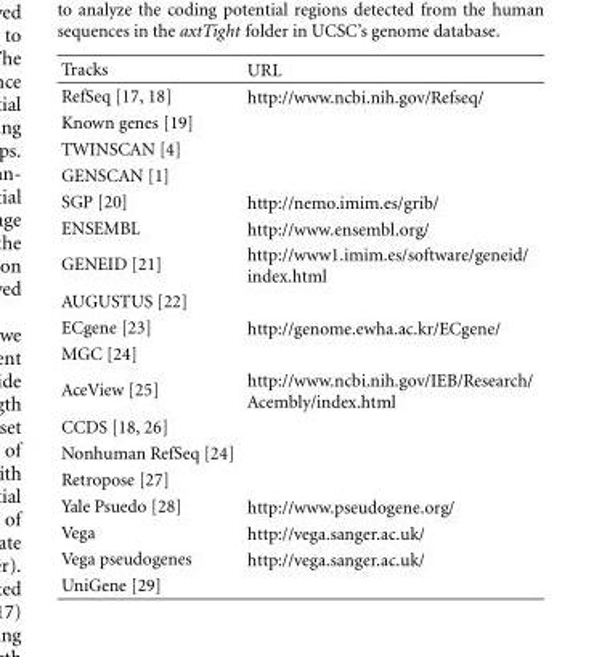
<table><thead><tr><td>Tracks</td><td>URL</td></tr></thead><tbody><tr><td>RefSeq [17, 18]</td><td>http://www.ncbi.nih.gov/Refseq/</td></tr><tr><td colspan="2">Known genes [19]</td></tr><tr><td colspan="2">TWINSCAN [4]</td></tr><tr><td colspan="2">GENSCAN [1]</td></tr><tr><td>SGP [20]</td><td>http://nemo.imim.es/grib/</td></tr><tr><td>ENSEMBL</td><td>http://www.ensembl.org/</td></tr><tr><td>GENEID [21]</td><td>http://www1.imim.es/software/geneid/ index.html</td></tr><tr><td colspan="2">AUGUSTUS [22]</td></tr><tr><td>ECgene [23]</td><td>http://genome.ewha.ac.kr/ECgene/</td></tr><tr><td colspan="2">MGC [24]</td></tr><tr><td>AceView [25]</td><td>http://www.ncbi.nih.gov/IEB/Research/ Acembly/index.html</td></tr><tr><td colspan="2">CCDS [18, 26]</td></tr><tr><td colspan="2">Nonhuman RefSeq [24]</td></tr><tr><td colspan="2">Retropose [27]</td></tr><tr><td>Yale Psuedo [28]</td><td>http://www.pseudogene.org/</td></tr><tr><td>Vega</td><td>http://vega.sanger.ac.uk/</td></tr><tr><td>Vega pseudogenes</td><td>http://vega.sanger.ac.uk/</td></tr><tr><td>UniGene [29]</td><td></td></tr></tbody></table>